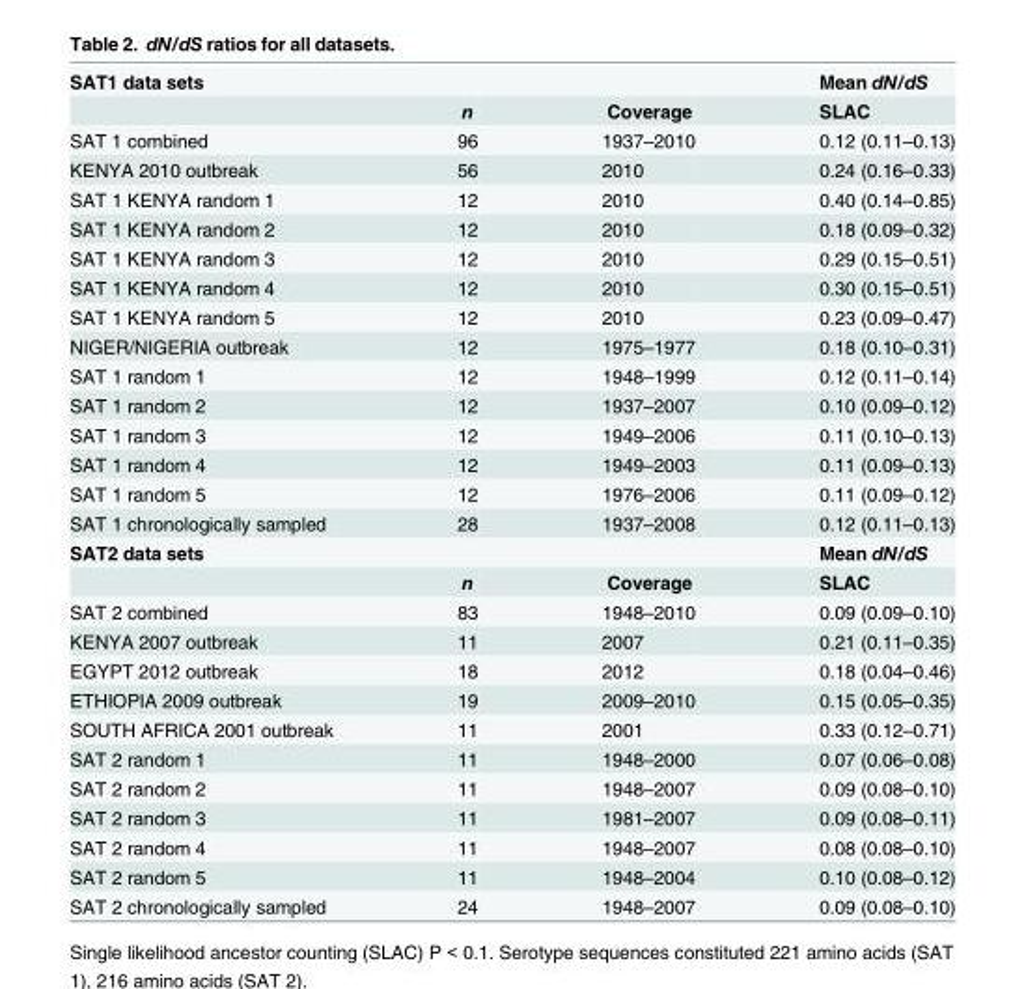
<table><tbody><tr><td rowspan="2">SAT1 data sets</td><td></td><td></td><td>Mean dN/dS</td></tr><tr><td>n</td><td>Coverage</td><td>SLAC</td></tr><tr><td>SAT 1 combined</td><td>96</td><td>1937–2010</td><td>0.12 (0.11–0.13)</td></tr><tr><td>KENYA 2010 outbreak</td><td>56</td><td>2010</td><td>0.24 (0.16–0.33)</td></tr><tr><td>SAT 1 KENYA random 1</td><td>12</td><td>2010</td><td>0.40 (0.14–0.85)</td></tr><tr><td>SAT 1 KENYA random 2</td><td>12</td><td>2010</td><td>0.18 (0.09–0.32)</td></tr><tr><td>SAT 1 KENYA random 3</td><td>12</td><td>2010</td><td>0.29 (0.15–0.51)</td></tr><tr><td>SAT 1 KENYA random 4</td><td>12</td><td>2010</td><td>0.30 (0.15–0.51)</td></tr><tr><td>SAT 1 KENYA random 5</td><td>12</td><td>2010</td><td>0.23 (0.09–0.47)</td></tr><tr><td>NIGER/NIGERIA outbreak</td><td>12</td><td>1975–1977</td><td>0.18 (0.10–0.31)</td></tr><tr><td>SAT 1 random 1</td><td>12</td><td>1948–1999</td><td>0.12 (0.11–0.14)</td></tr><tr><td>SAT 1 random 2</td><td>12</td><td>1937–2007</td><td>0.10 (0.09–0.12)</td></tr><tr><td>SAT 1 random 3</td><td>12</td><td>1949–2006</td><td>0.11 (0.10–0.13)</td></tr><tr><td>SAT 1 random 4</td><td>12</td><td>1949–2003</td><td>0.11 (0.09–0.13)</td></tr><tr><td>SAT 1 random 5</td><td>12</td><td>1976–2006</td><td>0.11 (0.09–0.12)</td></tr><tr><td>SAT 1 chronologically sampled</td><td>28</td><td>1937–2008</td><td>0.12 (0.11–0.13)</td></tr><tr><td rowspan="2">SAT2 data sets</td><td></td><td></td><td>Mean dN/dS</td></tr><tr><td>n</td><td>Coverage</td><td>SLAC</td></tr><tr><td>SAT 2 combined</td><td>83</td><td>1948–2010</td><td>0.09 (0.09–0.10)</td></tr><tr><td>KENYA 2007 outbreak</td><td>11</td><td>2007</td><td>0.21 (0.11–0.35)</td></tr><tr><td>EGYPT 2012 outbreak</td><td>18</td><td>2012</td><td>0.18 (0.04–0.46)</td></tr><tr><td>ETHIOPIA 2009 outbreak</td><td>19</td><td>2009–2010</td><td>0.15 (0.05–0.35)</td></tr><tr><td>SOUTH AFRICA 2001 outbreak</td><td>11</td><td>2001</td><td>0.33 (0.12–0.71)</td></tr><tr><td>SAT 2 random 1</td><td>11</td><td>1948–2000</td><td>0.07 (0.06–0.08)</td></tr><tr><td>SAT 2 random 2</td><td>11</td><td>1948–2007</td><td>0.09 (0.08–0.10)</td></tr><tr><td>SAT 2 random 3</td><td>11</td><td>1981–2007</td><td>0.09 (0.08–0.11)</td></tr><tr><td>SAT 2 random 4</td><td>11</td><td>1948–2007</td><td>0.08 (0.08–0.10)</td></tr><tr><td>SAT 2 random 5</td><td>11</td><td>1948–2004</td><td>0.10 (0.08–0.12)</td></tr><tr><td>SAT 2 chronologically sampled</td><td>24</td><td>1948–2007</td><td>0.09 (0.08–0.10)</td></tr></tbody></table>